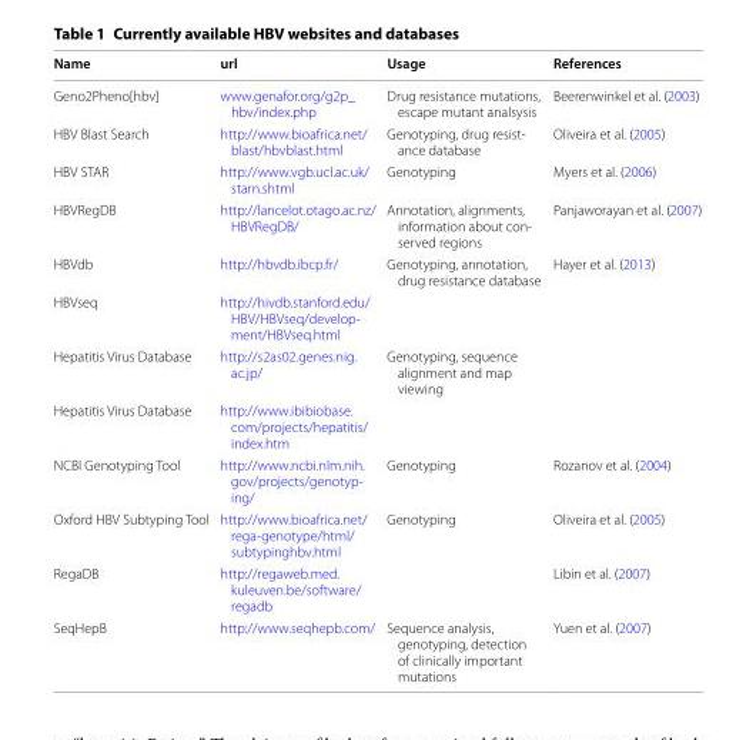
<table><thead><tr><td>Name</td><td>url</td><td>Usage</td><td>References</td></tr></thead><tbody><tr><td>Geno2Pheno[hbv]</td><td>www.genafor.org/g2p_ hbv/index.php</td><td>Drug resistance mutations, escape mutant analsysis</td><td>Beerenwinkel et al. (2003)</td></tr><tr><td>HBV Blast Search</td><td>http://www.bioafrica.net/ blast/hbvblast.html</td><td>Genotyping, drug resist- ance database</td><td>Oliveira et al. (2005)</td></tr><tr><td>HBV STAR</td><td>http://www.vgb.ucl.ac.uk/ starn.shtml</td><td>Genotyping</td><td>Myers et al. (2006)</td></tr><tr><td>HBVRegDB</td><td>http://lancelot.otago.ac.nz/ HBVRegDB/</td><td>Annotation, alignments, information about con- served regions</td><td>Panjaworayan et al. (2007)</td></tr><tr><td>HBVdb</td><td>http://hbvdb.ibcp.fr/</td><td>Genotyping, annotation, drug resistance database</td><td>Hayer et al. (2013)</td></tr><tr><td>HBVseq</td><td>http://hivdb.stanford.edu/ HBV/HBVseq/develop- ment/HBVseq.html</td><td></td><td></td></tr><tr><td>Hepatitis Virus Database</td><td>http://s2as02.genes.nig. ac.jp/</td><td>Genotyping, sequence alignment and map viewing</td><td></td></tr><tr><td>Hepatitis Virus Database</td><td>http://www.ibibiobase. com/projects/hepatitis/ index.htm</td><td></td><td></td></tr><tr><td>NCBI Genotyping Tool</td><td>http://www.ncbi.nlm.nih. gov/projects/genotyp- ing/</td><td>Genotyping</td><td>Rozanov et al. (2004)</td></tr><tr><td>Oxford HBV Subtyping Tool</td><td>http://www.bioafrica.net/ rega-genotype/html/ subtypinghbv.html</td><td>Genotyping</td><td>Oliveira et al. (2005)</td></tr><tr><td>RegaDB</td><td>http://regaweb.med. kuleuven.be/software/ regadb</td><td></td><td>Libin et al. (2007)</td></tr><tr><td>SeqHepB</td><td>http://www.seqhepb.com/</td><td>Sequence analysis, genotyping, detection of clinically important mutations</td><td>Yuen et al. (2007)</td></tr></tbody></table>